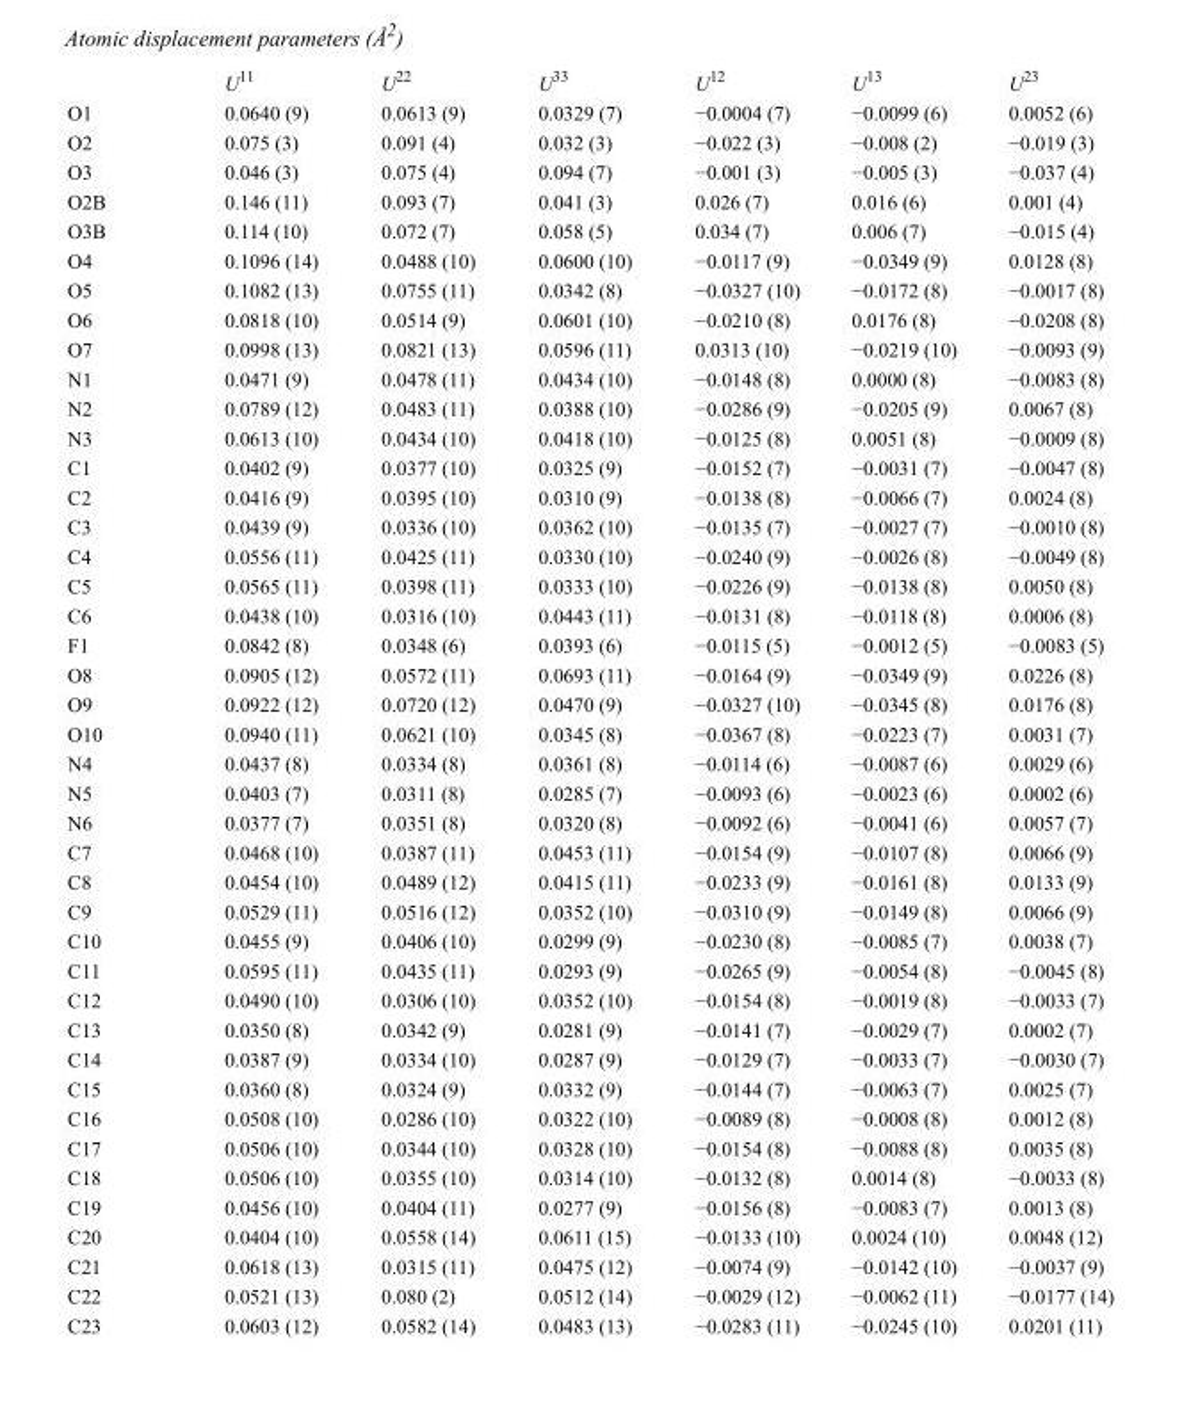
<table><thead><tr><td></td><td>U<sup>11</sup></td><td>U<sup>22</sup></td><td>U<sup>33</sup></td><td>U<sup>12</sup></td><td>U<sup>13</sup></td><td>U<sup>23</sup></td></tr></thead><tbody><tr><td>O1</td><td>0.0640 (9)</td><td>0.0613 (9)</td><td>0.0329 (7)</td><td>−0.0004 (7)</td><td>−0.0099 (6)</td><td>0.0052 (6)</td></tr><tr><td>O2</td><td>0.075 (3)</td><td>0.091 (4)</td><td>0.032 (3)</td><td>−0.022 (3)</td><td>−0.008 (2)</td><td>−0.019 (3)</td></tr><tr><td>O3</td><td>0.046 (3)</td><td>0.075 (4)</td><td>0.094 (7)</td><td>−0.001 (3)</td><td>−0.005 (3)</td><td>−0.037 (4)</td></tr><tr><td>O2B</td><td>0.146 (11)</td><td>0.093 (7)</td><td>0.041 (3)</td><td>0.026 (7)</td><td>0.016 (6)</td><td>0.001 (4)</td></tr><tr><td>O3B</td><td>0.114 (10)</td><td>0.072 (7)</td><td>0.058 (5)</td><td>0.034 (7)</td><td>0.006 (7)</td><td>−0.015 (4)</td></tr><tr><td>O4</td><td>0.1096 (14)</td><td>0.0488 (10)</td><td>0.0600 (10)</td><td>−0.0117 (9)</td><td>−0.0349 (9)</td><td>0.0128 (8)</td></tr><tr><td>O5</td><td>0.1082 (13)</td><td>0.0755 (11)</td><td>0.0342 (8)</td><td>−0.0327 (10)</td><td>−0.0172 (8)</td><td>−0.0017 (8)</td></tr><tr><td>O6</td><td>0.0818 (10)</td><td>0.0514 (9)</td><td>0.0601 (10)</td><td>−0.0210 (8)</td><td>0.0176 (8)</td><td>−0.0208 (8)</td></tr><tr><td>O7</td><td>0.0998 (13)</td><td>0.0821 (13)</td><td>0.0596 (11)</td><td>0.0313 (10)</td><td>−0.0219 (10)</td><td>−0.0093 (9)</td></tr><tr><td>N1</td><td>0.0471 (9)</td><td>0.0478 (11)</td><td>0.0434 (10)</td><td>−0.0148 (8)</td><td>0.0000 (8)</td><td>−0.0083 (8)</td></tr><tr><td>N2</td><td>0.0789 (12)</td><td>0.0483 (11)</td><td>0.0388 (10)</td><td>−0.0286 (9)</td><td>−0.0205 (9)</td><td>0.0067 (8)</td></tr><tr><td>N3</td><td>0.0613 (10)</td><td>0.0434 (10)</td><td>0.0418 (10)</td><td>−0.0125 (8)</td><td>0.0051 (8)</td><td>−0.0009 (8)</td></tr><tr><td>C1</td><td>0.0402 (9)</td><td>0.0377 (10)</td><td>0.0325 (9)</td><td>−0.0152 (7)</td><td>−0.0031 (7)</td><td>−0.0047 (8)</td></tr><tr><td>C2</td><td>0.0416 (9)</td><td>0.0395 (10)</td><td>0.0310 (9)</td><td>−0.0138 (8)</td><td>−0.0066 (7)</td><td>0.0024 (8)</td></tr><tr><td>C3</td><td>0.0439 (9)</td><td>0.0336 (10)</td><td>0.0362 (10)</td><td>−0.0135 (7)</td><td>−0.0027 (7)</td><td>−0.0010 (8)</td></tr><tr><td>C4</td><td>0.0556 (11)</td><td>0.0425 (11)</td><td>0.0330 (10)</td><td>−0.0240 (9)</td><td>−0.0026 (8)</td><td>−0.0049 (8)</td></tr><tr><td>C5</td><td>0.0565 (11)</td><td>0.0398 (11)</td><td>0.0333 (10)</td><td>−0.0226 (9)</td><td>−0.0138 (8)</td><td>0.0050 (8)</td></tr><tr><td>C6</td><td>0.0438 (10)</td><td>0.0316 (10)</td><td>0.0443 (11)</td><td>−0.0131 (8)</td><td>−0.0118 (8)</td><td>0.0006 (8)</td></tr><tr><td>F1</td><td>0.0842 (8)</td><td>0.0348 (6)</td><td>0.0393 (6)</td><td>−0.0115 (5)</td><td>−0.0012 (5)</td><td>−0.0083 (5)</td></tr><tr><td>O8</td><td>0.0905 (12)</td><td>0.0572 (11)</td><td>0.0693 (11)</td><td>−0.0164 (9)</td><td>−0.0349 (9)</td><td>0.0226 (8)</td></tr><tr><td>O9</td><td>0.0922 (12)</td><td>0.0720 (12)</td><td>0.0470 (9)</td><td>−0.0327 (10)</td><td>−0.0345 (8)</td><td>0.0176 (8)</td></tr><tr><td>O10</td><td>0.0940 (11)</td><td>0.0621 (10)</td><td>0.0345 (8)</td><td>−0.0367 (8)</td><td>−0.0223 (7)</td><td>0.0031 (7)</td></tr><tr><td>N4</td><td>0.0437 (8)</td><td>0.0334 (8)</td><td>0.0361 (8)</td><td>−0.0114 (6)</td><td>−0.0087 (6)</td><td>0.0029 (6)</td></tr><tr><td>N5</td><td>0.0403 (7)</td><td>0.0311 (8)</td><td>0.0285 (7)</td><td>−0.0093 (6)</td><td>−0.0023 (6)</td><td>0.0002 (6)</td></tr><tr><td>N6</td><td>0.0377 (7)</td><td>0.0351 (8)</td><td>0.0320 (8)</td><td>−0.0092 (6)</td><td>−0.0041 (6)</td><td>0.0057 (7)</td></tr><tr><td>C7</td><td>0.0468 (10)</td><td>0.0387 (11)</td><td>0.0453 (11)</td><td>−0.0154 (9)</td><td>−0.0107 (8)</td><td>0.0066 (9)</td></tr><tr><td>C8</td><td>0.0454 (10)</td><td>0.0489 (12)</td><td>0.0415 (11)</td><td>−0.0233 (9)</td><td>−0.0161 (8)</td><td>0.0133 (9)</td></tr><tr><td>C9</td><td>0.0529 (11)</td><td>0.0516 (12)</td><td>0.0352 (10)</td><td>−0.0310 (9)</td><td>−0.0149 (8)</td><td>0.0066 (9)</td></tr><tr><td>C10</td><td>0.0455 (9)</td><td>0.0406 (10)</td><td>0.0299 (9)</td><td>−0.0230 (8)</td><td>−0.0085 (7)</td><td>0.0038 (7)</td></tr><tr><td>C11</td><td>0.0595 (11)</td><td>0.0435 (11)</td><td>0.0293 (9)</td><td>−0.0265 (9)</td><td>−0.0054 (8)</td><td>−0.0045 (8)</td></tr><tr><td>C12</td><td>0.0490 (10)</td><td>0.0306 (10)</td><td>0.0352 (10)</td><td>−0.0154 (8)</td><td>−0.0019 (8)</td><td>−0.0033 (7)</td></tr><tr><td>C13</td><td>0.0350 (8)</td><td>0.0342 (9)</td><td>0.0281 (9)</td><td>−0.0141 (7)</td><td>−0.0029 (7)</td><td>0.0002 (7)</td></tr><tr><td>C14</td><td>0.0387 (9)</td><td>0.0334 (10)</td><td>0.0287 (9)</td><td>−0.0129 (7)</td><td>−0.0033 (7)</td><td>−0.0030 (7)</td></tr><tr><td>C15</td><td>0.0360 (8)</td><td>0.0324 (9)</td><td>0.0332 (9)</td><td>−0.0144 (7)</td><td>−0.0063 (7)</td><td>0.0025 (7)</td></tr><tr><td>C16</td><td>0.0508 (10)</td><td>0.0286 (10)</td><td>0.0322 (10)</td><td>−0.0089 (8)</td><td>−0.0008 (8)</td><td>0.0012 (8)</td></tr><tr><td>C17</td><td>0.0506 (10)</td><td>0.0344 (10)</td><td>0.0328 (10)</td><td>−0.0154 (8)</td><td>−0.0088 (8)</td><td>0.0035 (8)</td></tr><tr><td>C18</td><td>0.0506 (10)</td><td>0.0355 (10)</td><td>0.0314 (10)</td><td>−0.0132 (8)</td><td>0.0014 (8)</td><td>−0.0033 (8)</td></tr><tr><td>C19</td><td>0.0456 (10)</td><td>0.0404 (11)</td><td>0.0277 (9)</td><td>−0.0156 (8)</td><td>−0.0083 (7)</td><td>0.0013 (8)</td></tr><tr><td>C20</td><td>0.0404 (10)</td><td>0.0558 (14)</td><td>0.0611 (15)</td><td>−0.0133 (10)</td><td>0.0024 (10)</td><td>0.0048 (12)</td></tr><tr><td>C21</td><td>0.0618 (13)</td><td>0.0315 (11)</td><td>0.0475 (12)</td><td>−0.0074 (9)</td><td>−0.0142 (10)</td><td>−0.0037 (9)</td></tr><tr><td>C22</td><td>0.0521 (13)</td><td>0.080 (2)</td><td>0.0512 (14)</td><td>−0.0029 (12)</td><td>−0.0062 (11)</td><td>−0.0177 (14)</td></tr><tr><td>C23</td><td>0.0603 (12)</td><td>0.0582 (14)</td><td>0.0483 (13)</td><td>−0.0283 (11)</td><td>−0.0245 (10)</td><td>0.0201 (11)</td></tr></tbody></table>